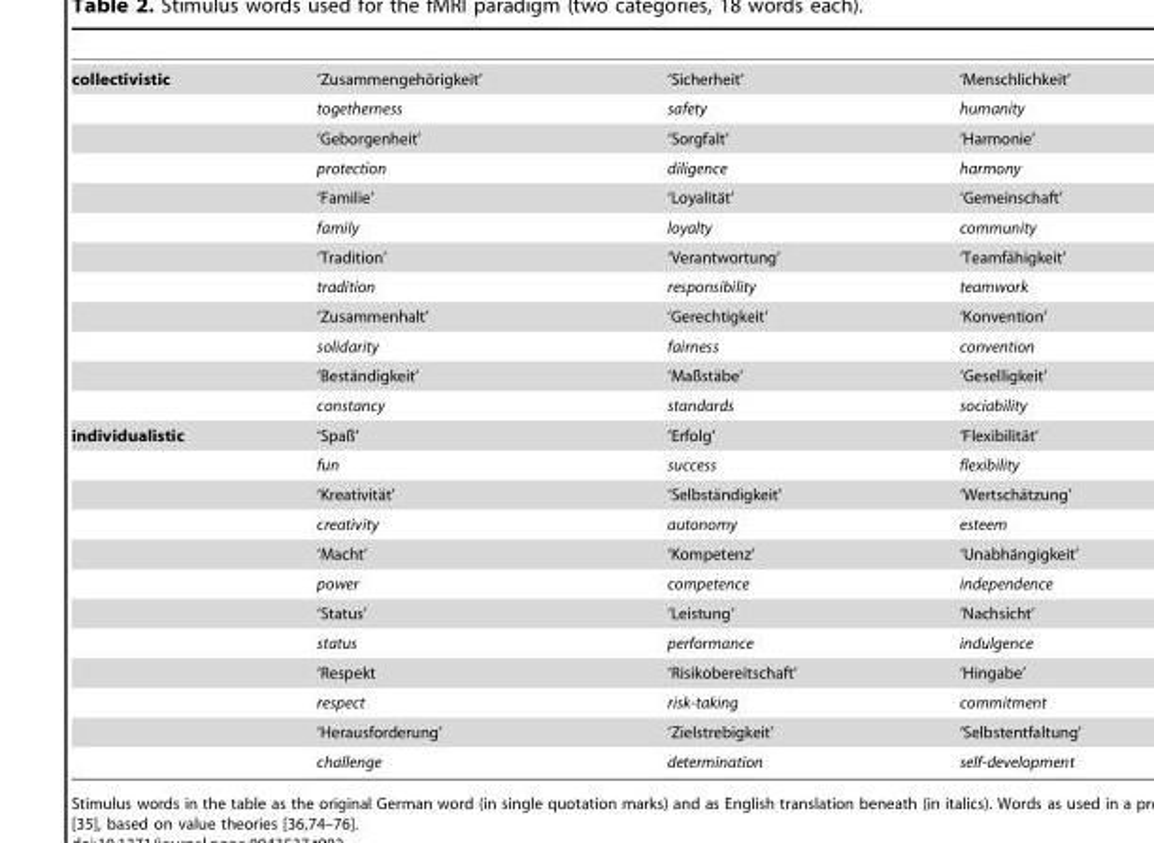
<table><tbody><tr><td rowspan="12">collectivistic</td><td>‘Zusammengeho¨rigkeit’</td><td>‘Sicherheit’</td><td>‘Menschlichkeit’</td></tr><tr><td>togetherness</td><td>safety</td><td>humanity</td></tr><tr><td>‘Geborgenheit’</td><td>‘Sorgfalt’</td><td>‘Harmonie’</td></tr><tr><td>protection</td><td>diligence</td><td>harmony</td></tr><tr><td>‘Familie’</td><td>‘Loyalita¨t’</td><td>‘Gemeinschaft’</td></tr><tr><td>family</td><td>loyalty</td><td>community</td></tr><tr><td>‘Tradition’</td><td>‘Verantwortung’</td><td>‘Teamfa¨higkeit’</td></tr><tr><td>tradition</td><td>responsibility</td><td>teamwork</td></tr><tr><td>‘Zusammenhalt’</td><td>‘Gerechtigkeit’</td><td>‘Konvention’</td></tr><tr><td>solidarity</td><td>fairness</td><td>convention</td></tr><tr><td>‘Besta¨ndigkeit’</td><td>‘Maßsta¨be’</td><td>‘Geselligkeit’</td></tr><tr><td>constancy</td><td>standards</td><td>sociability</td></tr><tr><td rowspan="12">individualistic</td><td>‘Spaß’</td><td>‘Erfolg’</td><td>‘Flexibilita¨t’</td></tr><tr><td>fun</td><td>success</td><td>flexibility</td></tr><tr><td>‘Kreativita¨t’</td><td>‘Selbsta¨ndigkeit’</td><td>‘Wertscha¨tzung’</td></tr><tr><td>creativity</td><td>autonomy</td><td>esteem</td></tr><tr><td>‘Macht’</td><td>‘Kompetenz’</td><td>‘Unabha¨ngigkeit’</td></tr><tr><td>power</td><td>competence</td><td>independence</td></tr><tr><td>‘Status’</td><td>‘Leistung’</td><td>‘Nachsicht’</td></tr><tr><td>status</td><td>performance</td><td>indulgence</td></tr><tr><td>‘Respekt</td><td>‘Risikobereitschaft’</td><td>‘Hingabe’</td></tr><tr><td>respect</td><td>risk-taking</td><td>commitment</td></tr><tr><td>‘Herausforderung’</td><td>‘Zielstrebigkeit’</td><td>‘Selbstentfaltung’</td></tr><tr><td>challenge</td><td>determination</td><td>self-development</td></tr></tbody></table>